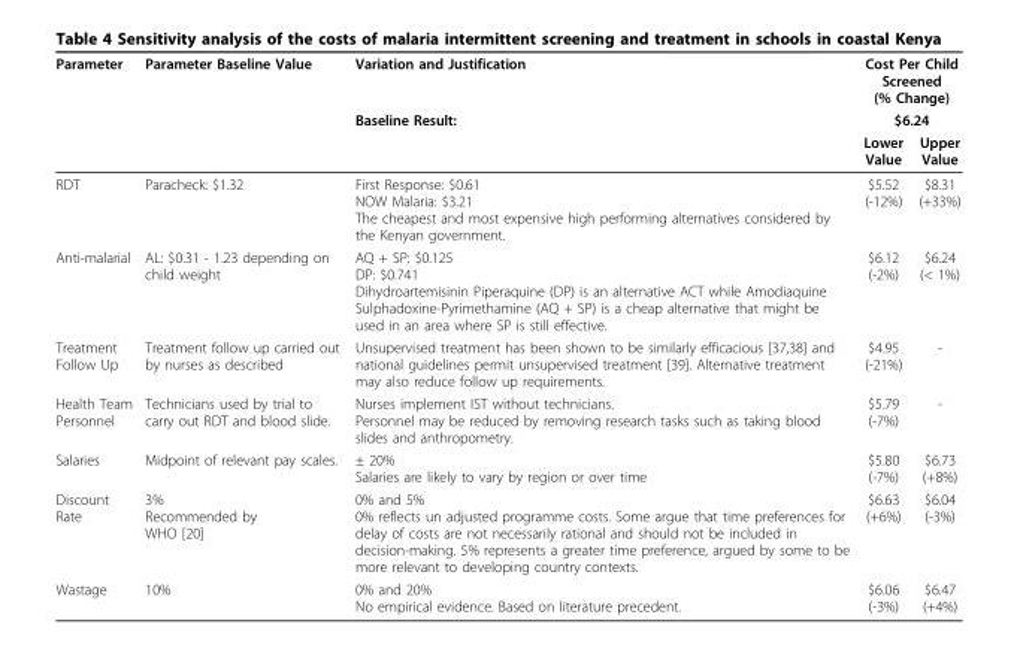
<table><thead><tr><td rowspan="3">Parameter</td><td rowspan="3">Parameter Baseline Value</td><td rowspan="3">Variation and Justification Baseline Result:</td><td rowspan="2" colspan="2">Cost Per Child Screened (% Change) $6.24</td></tr><tr></tr><tr><td>Lower Value</td><td>Upper Value</td></tr></thead><tbody><tr><td>RDT</td><td>Paracheck: $1.32</td><td>First Response: $0.61 NOW Malaria: $3.21 The cheapest and most expensive high performing alternatives considered by the Kenyan government.</td><td>$5.52 (-12%)</td><td>$8.31 (+33%)</td></tr><tr><td>Anti-malarial</td><td>AL: $0.31 - 1.23 depending on child weight</td><td>AQ + SP: $0.125 DP: $0.741 Dihydroartemisinin Piperaquine (DP) is an alternative ACT while Amodiaquine Sulphadoxine-Pyrimethamine (AQ + SP) is a cheap alternative that might be used in an area where SP is still effective.</td><td>$6.12 (-2%)</td><td>$6.24 (&lt; 1%)</td></tr><tr><td>Treatment Follow Up</td><td>Treatment follow up carried out by nurses as described</td><td>Unsupervised treatment has been shown to be similarly efficacious [37,38] and national guidelines permit unsupervised treatment [39]. Alternative treatment may also reduce follow up requirements.</td><td>$4.95 (-21%)</td><td>-</td></tr><tr><td>Health Team Personnel</td><td>Technicians used by trial to carry out RDT and blood slide.</td><td>Nurses implement IST without technicians. Personnel may be reduced by removing research tasks such as taking blood slides and anthropometry.</td><td>$5.79 (-7%)</td><td>-</td></tr><tr><td>Salaries</td><td>Midpoint of relevant pay scales.</td><td>± 20% Salaries are likely to vary by region or over time</td><td>$5.80 (-7%)</td><td>$6.73 (+8%)</td></tr><tr><td>Discount Rate</td><td>3% Recommended by WHO [20]</td><td>0% and 5% 0% reflects un adjusted programme costs. Some argue that time preferences for delay of costs are not necessarily rational and should not be included in decision-making. 5% represents a greater time preference, argued by some to be more relevant to developing country contexts.</td><td>$6.63 (+6%)</td><td>$6.04 (-3%)</td></tr><tr><td>Wastage</td><td>10%</td><td>0% and 20% No empirical evidence. Based on literature precedent.</td><td>$6.06 (-3%)</td><td>$6.47 (+4%)</td></tr></tbody></table>